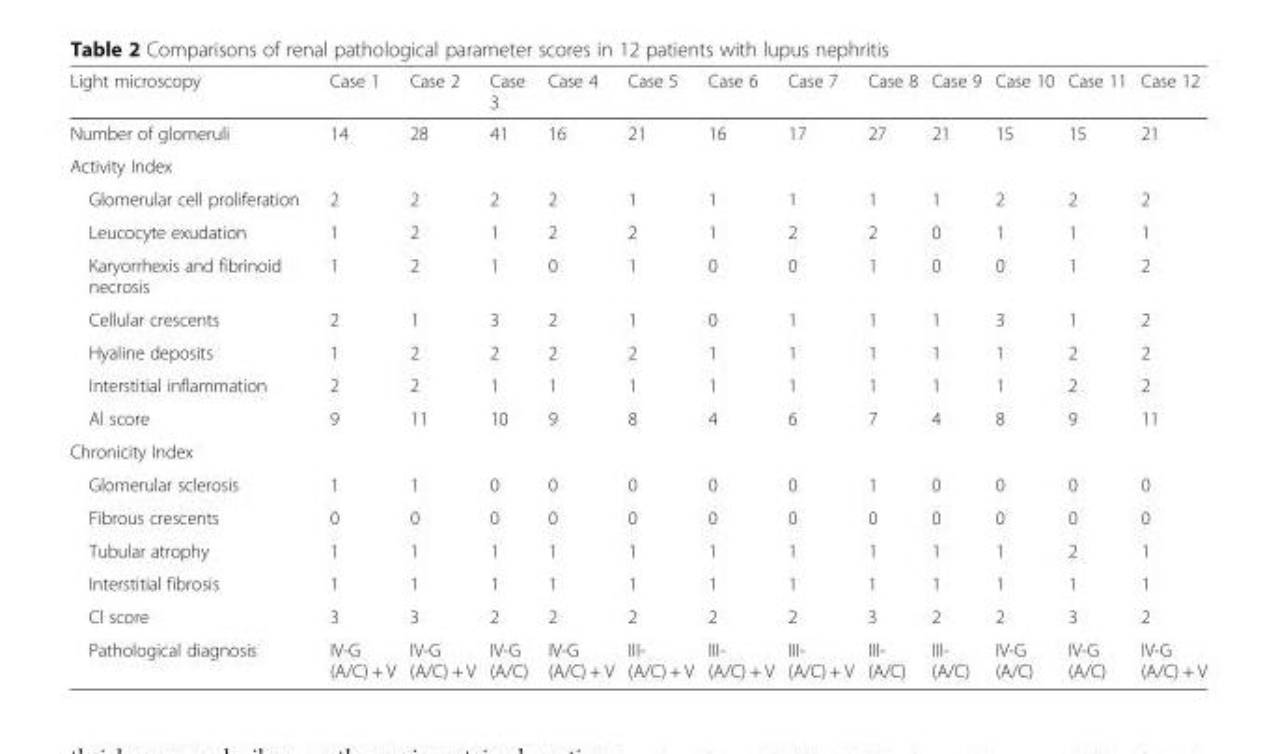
<table><thead><tr><td>Light microscopy</td><td>Case 1</td><td>Case 2</td><td>Case 3</td><td>Case 4</td><td>Case 5</td><td>Case 6</td><td>Case 7</td><td>Case 8</td><td>Case 9</td><td>Case 10</td><td>Case 11</td><td>Case 12</td></tr></thead><tbody><tr><td>Number of glomeruli</td><td>14</td><td>28</td><td>41</td><td>16</td><td>21</td><td>16</td><td>17</td><td>27</td><td>21</td><td>15</td><td>15</td><td>21</td></tr><tr><td colspan="13">Activity Index</td></tr><tr><td>Glomerular cell proliferation</td><td>2</td><td>2</td><td>2</td><td>2</td><td>1</td><td>1</td><td>1</td><td>1</td><td>1</td><td>2</td><td>2</td><td>2</td></tr><tr><td>Leucocyte exudation</td><td>1</td><td>2</td><td>1</td><td>2</td><td>2</td><td>1</td><td>2</td><td>2</td><td>0</td><td>1</td><td>1</td><td>1</td></tr><tr><td>Karyorrhexis and fibrinoid necrosis</td><td>1</td><td>2</td><td>1</td><td>0</td><td>1</td><td>0</td><td>0</td><td>1</td><td>0</td><td>0</td><td>1</td><td>2</td></tr><tr><td>Cellular crescents</td><td>2</td><td>1</td><td>3</td><td>2</td><td>1</td><td>0</td><td>1</td><td>1</td><td>1</td><td>3</td><td>1</td><td>2</td></tr><tr><td>Hyaline deposits</td><td>1</td><td>2</td><td>2</td><td>2</td><td>2</td><td>1</td><td>1</td><td>1</td><td>1</td><td>1</td><td>2</td><td>2</td></tr><tr><td>Interstitial inflammation</td><td>2</td><td>2</td><td>1</td><td>1</td><td>1</td><td>1</td><td>1</td><td>1</td><td>1</td><td>1</td><td>2</td><td>2</td></tr><tr><td>Al score</td><td>9</td><td>11</td><td>10</td><td>9</td><td>8</td><td>4</td><td>6</td><td>7</td><td>4</td><td>8</td><td>9</td><td>11</td></tr><tr><td colspan="13">Chronicity Index</td></tr><tr><td>Glomerular sclerosis</td><td>1</td><td>1</td><td>0</td><td>0</td><td>0</td><td>0</td><td>0</td><td>1</td><td>0</td><td>0</td><td>0</td><td>0</td></tr><tr><td>Fibrous crescents</td><td>0</td><td>0</td><td>0</td><td>0</td><td>0</td><td>0</td><td>0</td><td>0</td><td>0</td><td>0</td><td>0</td><td>0</td></tr><tr><td>Tubular atrophy</td><td>1</td><td>1</td><td>1</td><td>1</td><td>1</td><td>1</td><td>1</td><td>1</td><td>1</td><td>1</td><td>2</td><td>1</td></tr><tr><td>Interstitial fibrosis</td><td>1</td><td>1</td><td>1</td><td>1</td><td>1</td><td>1</td><td>1</td><td>1</td><td>1</td><td>1</td><td>1</td><td>1</td></tr><tr><td>Cl score</td><td>3</td><td>3</td><td>2</td><td>2</td><td>2</td><td>2</td><td>2</td><td>3</td><td>2</td><td>2</td><td>3</td><td>2</td></tr><tr><td>Pathological diagnosis</td><td>IV-G (A/C) + V</td><td>IV-G (A/C) + V</td><td>IV-G (A/C)</td><td>IV-G (A/C) + V</td><td>III- (A/C) + V</td><td>III- (A/C) + V</td><td>III- (A/C) + V</td><td>III- (A/C)</td><td>III- (A/C)</td><td>IV-G (A/C)</td><td>IV-G (A/C)</td><td>IV-G (A/C) + V</td></tr></tbody></table>